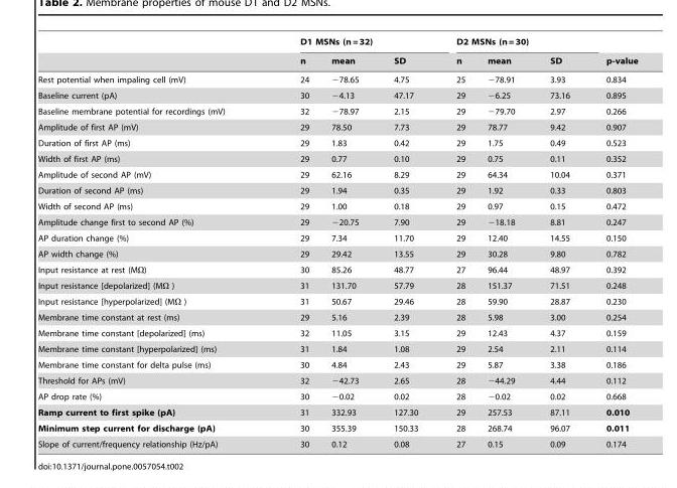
<table><thead><tr><td rowspan="2"></td><td colspan="3">D1 MSNs (n = 32)</td><td colspan="3">D2 MSNs (n = 30)</td><td rowspan="2">p-value</td></tr><tr><td>n</td><td>mean</td><td>SD</td><td>n</td><td>mean</td><td>SD</td></tr></thead><tbody><tr><td>Rest potential when impaling cell (mV)</td><td>24</td><td>−78.65</td><td>4.75</td><td>25</td><td>−78.91</td><td>3.93</td><td>0.834</td></tr><tr><td>Baseline current (pA)</td><td>30</td><td>−4.13</td><td>47.17</td><td>29</td><td>−6.25</td><td>73.16</td><td>0.895</td></tr><tr><td>Baseline membrane potential for recordings (mV)</td><td>32</td><td>−78.97</td><td>2.15</td><td>29</td><td>−79.70</td><td>2.97</td><td>0.266</td></tr><tr><td>Amplitude of first AP (mV)</td><td>29</td><td>78.50</td><td>7.73</td><td>29</td><td>78.77</td><td>9.42</td><td>0.907</td></tr><tr><td>Duration of first AP (ms)</td><td>29</td><td>1.83</td><td>0.42</td><td>29</td><td>1.75</td><td>0.49</td><td>0.523</td></tr><tr><td>Width of first AP (ms)</td><td>29</td><td>0.77</td><td>0.10</td><td>29</td><td>0.75</td><td>0.11</td><td>0.352</td></tr><tr><td>Amplitude of second AP (mV)</td><td>29</td><td>62.16</td><td>8.29</td><td>29</td><td>64.34</td><td>10.04</td><td>0.371</td></tr><tr><td>Duration of second AP (ms)</td><td>29</td><td>1.94</td><td>0.35</td><td>29</td><td>1.92</td><td>0.33</td><td>0.803</td></tr><tr><td>Width of second AP (ms)</td><td>29</td><td>1.00</td><td>0.18</td><td>29</td><td>0.97</td><td>0.15</td><td>0.472</td></tr><tr><td>Amplitude change first to second AP (%)</td><td>29</td><td>−20.75</td><td>7.90</td><td>29</td><td>−18.18</td><td>8.81</td><td>0.247</td></tr><tr><td>AP duration change (%)</td><td>29</td><td>7.34</td><td>11.70</td><td>29</td><td>12.40</td><td>14.55</td><td>0.150</td></tr><tr><td>AP width change (%)</td><td>29</td><td>29.42</td><td>13.55</td><td>29</td><td>30.28</td><td>9.80</td><td>0.782</td></tr><tr><td>Input resistance at rest (MΩ)</td><td>30</td><td>85.26</td><td>48.77</td><td>27</td><td>96.44</td><td>48.97</td><td>0.392</td></tr><tr><td>Input resistance [depolarized] (MΩ )</td><td>31</td><td>131.70</td><td>57.79</td><td>28</td><td>151.37</td><td>71.51</td><td>0.248</td></tr><tr><td>Input resistance [hyperpolarized] (MΩ )</td><td>31</td><td>50.67</td><td>29.46</td><td>28</td><td>59.90</td><td>28.87</td><td>0.230</td></tr><tr><td>Membrane time constant at rest (ms)</td><td>29</td><td>5.16</td><td>2.39</td><td>28</td><td>5.98</td><td>3.00</td><td>0.254</td></tr><tr><td>Membrane time constant [depolarized] (ms)</td><td>32</td><td>11.05</td><td>3.15</td><td>29</td><td>12.43</td><td>4.37</td><td>0.159</td></tr><tr><td>Membrane time constant [hyperpolarized] (ms)</td><td>31</td><td>1.84</td><td>1.08</td><td>29</td><td>2.54</td><td>2.11</td><td>0.114</td></tr><tr><td>Membrane time constant for delta pulse (ms)</td><td>30</td><td>4.84</td><td>2.43</td><td>29</td><td>5.87</td><td>3.38</td><td>0.186</td></tr><tr><td>Threshold for APs (mV)</td><td>32</td><td>−42.73</td><td>2.65</td><td>28</td><td>−44.29</td><td>4.44</td><td>0.112</td></tr><tr><td>AP drop rate (%)</td><td>30</td><td>−0.02</td><td>0.02</td><td>28</td><td>−0.02</td><td>0.02</td><td>0.668</td></tr><tr><td>Ramp current to first spike (pA)</td><td>31</td><td>332.93</td><td>127.30</td><td>29</td><td>257.53</td><td>87.11</td><td>0.010</td></tr><tr><td>Minimum step current for discharge (pA)</td><td>30</td><td>355.39</td><td>150.33</td><td>28</td><td>268.74</td><td>96.07</td><td>0.011</td></tr><tr><td>Slope of current/frequency relationship (Hz/pA)</td><td>30</td><td>0.12</td><td>0.08</td><td>27</td><td>0.15</td><td>0.09</td><td>0.174</td></tr></tbody></table>